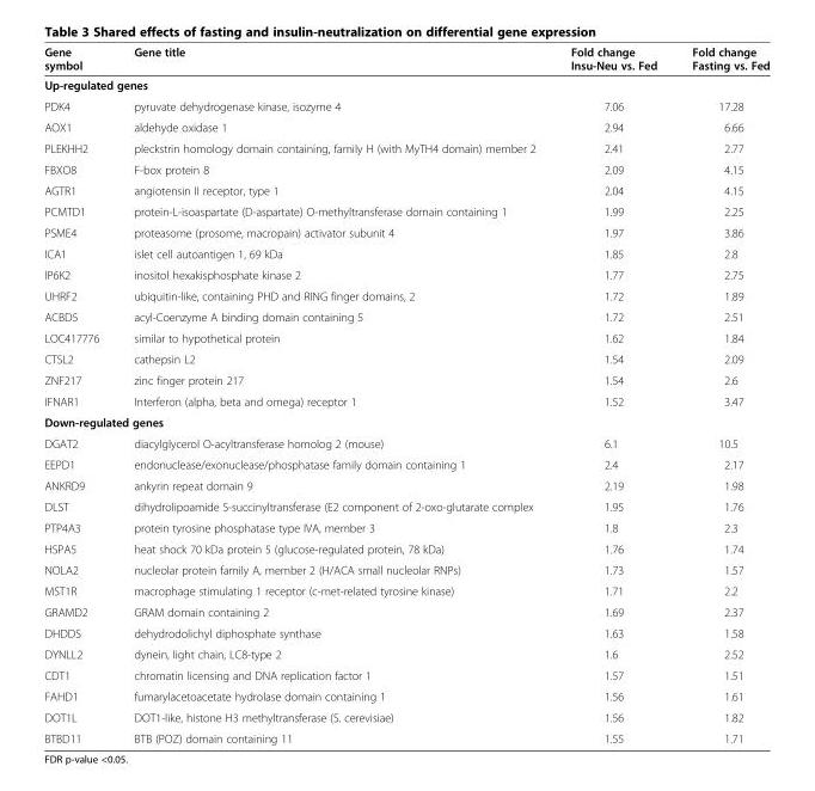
<table><thead><tr><td>Gene symbol</td><td>Gene title</td><td>Fold change Insu-Neu vs. Fed</td><td>Fold change Fasting vs. Fed</td></tr></thead><tbody><tr><td colspan="4">Up-regulated genes</td></tr><tr><td>PDK4</td><td>pyruvate dehydrogenase kinase, isozyme 4</td><td>7.06</td><td>17.28</td></tr><tr><td>AOX1</td><td>aldehyde oxidase 1</td><td>2.94</td><td>6.66</td></tr><tr><td>PLEKHH2</td><td>pleckstrin homology domain containing, family H (with MyTH4 domain) member 2</td><td>2.41</td><td>2.77</td></tr><tr><td>FBXO8</td><td>F-box protein 8</td><td>2.09</td><td>4.15</td></tr><tr><td>AGTR1</td><td>angiotensin II receptor, type 1</td><td>2.04</td><td>4.15</td></tr><tr><td>PCMTD1</td><td>protein-L-isoaspartate (D-aspartate) O-methyltransferase domain containing 1</td><td>1.99</td><td>2.25</td></tr><tr><td>PSME4</td><td>proteasome (prosome, macropain) activator subunit 4</td><td>1.97</td><td>3.86</td></tr><tr><td>ICA1</td><td>islet cell autoantigen 1, 69 kDa</td><td>1.85</td><td>2.8</td></tr><tr><td>IP6K2</td><td>inositol hexakisphosphate kinase 2</td><td>1.77</td><td>2.75</td></tr><tr><td>UHRF2</td><td>ubiquitin-like, containing PHD and RING finger domains, 2</td><td>1.72</td><td>1.89</td></tr><tr><td>ACBD5</td><td>acyl-Coenzyme A binding domain containing 5</td><td>1.72</td><td>2.51</td></tr><tr><td>LOC417776</td><td>similar to hypothetical protein</td><td>1.62</td><td>1.84</td></tr><tr><td>CTSL2</td><td>cathepsin L2</td><td>1.54</td><td>2.09</td></tr><tr><td>ZNF217</td><td>zinc finger protein 217</td><td>1.54</td><td>2.6</td></tr><tr><td>IFNAR1</td><td>Interferon (alpha, beta and omega) receptor 1</td><td>1.52</td><td>3.47</td></tr><tr><td colspan="4">Down-regulated genes</td></tr><tr><td>DGAT2</td><td>diacylglycerol O-acyltransferase homolog 2 (mouse)</td><td>6.1</td><td>10.5</td></tr><tr><td>EEPD1</td><td>endonuclease/exonuclease/phosphatase family domain containing 1</td><td>2.4</td><td>2.17</td></tr><tr><td>ANKRD9</td><td>ankyrin repeat domain 9</td><td>2.19</td><td>1.98</td></tr><tr><td>DLST</td><td>dihydrolipoamide S-succinyltransferase (E2 component of 2-oxo-glutarate complex</td><td>1.95</td><td>1.76</td></tr><tr><td>PTP4A3</td><td>protein tyrosine phosphatase type IVA, member 3</td><td>1.8</td><td>2.3</td></tr><tr><td>HSPA5</td><td>heat shock 70 kDa protein 5 (glucose-regulated protein, 78 kDa)</td><td>1.76</td><td>1.74</td></tr><tr><td>NOLA2</td><td>nucleolar protein family A, member 2 (H/ACA small nucleolar RNPs)</td><td>1.73</td><td>1.57</td></tr><tr><td>MST1R</td><td>macrophage stimulating 1 receptor (c-met-related tyrosine kinase)</td><td>1.71</td><td>2.2</td></tr><tr><td>GRAMD2</td><td>GRAM domain containing 2</td><td>1.69</td><td>2.37</td></tr><tr><td>DHDDS</td><td>dehydrodolichyl diphosphate synthase</td><td>1.63</td><td>1.58</td></tr><tr><td>DYNLL2</td><td>dynein, light chain, LC8-type 2</td><td>1.6</td><td>2.52</td></tr><tr><td>CDT1</td><td>chromatin licensing and DNA replication factor 1</td><td>1.57</td><td>1.51</td></tr><tr><td>FAHD1</td><td>fumarylacetoacetate hydrolase domain containing 1</td><td>1.56</td><td>1.61</td></tr><tr><td>DOT1L</td><td>DOT1-like, histone H3 methyltransferase (S. cerevisiae)</td><td>1.56</td><td>1.82</td></tr><tr><td>BTBD11</td><td>BTB (POZ) domain containing 11</td><td>1.55</td><td>1.71</td></tr></tbody></table>